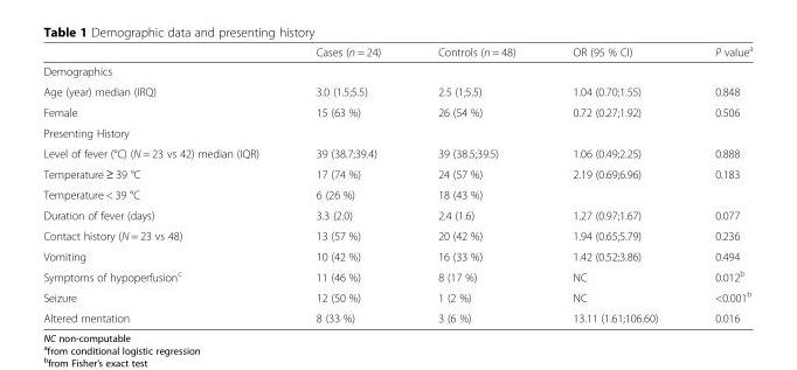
<table><thead><tr><td></td><td>Cases (n = 24)</td><td>Controls (n = 48)</td><td>OR (95 % CI)</td><td>P value<sup>a</sup></td></tr></thead><tbody><tr><td colspan="5">Demographics</td></tr><tr><td>Age (year) median (IRQ)</td><td>3.0 (1.5;5.5)</td><td>2.5 (1;5.5)</td><td>1.04 (0.70;1.55)</td><td>0.848</td></tr><tr><td>Female</td><td>15 (63 %)</td><td>26 (54 %)</td><td>0.72 (0.27;1.92)</td><td>0.506</td></tr><tr><td colspan="5">Presenting History</td></tr><tr><td>Level of fever (°C) (N = 23 vs 42) median (IQR)</td><td>39 (38.7;39.4)</td><td>39 (38.5;39.5)</td><td>1.06 (0.49;2.25)</td><td>0.888</td></tr><tr><td>Temperature ≥ 39 °C</td><td>17 (74 %)</td><td>24 (57 %)</td><td>2.19 (0.69;6.96)</td><td>0.183</td></tr><tr><td>Temperature &lt; 39 °C</td><td>6 (26 %)</td><td>18 (43 %)</td><td></td><td></td></tr><tr><td>Duration of fever (days)</td><td>3.3 (2.0)</td><td>2.4 (1.6)</td><td>1.27 (0.97;1.67)</td><td>0.077</td></tr><tr><td>Contact history (N = 23 vs 48)</td><td>13 (57 %)</td><td>20 (42 %)</td><td>1.94 (0.65;5.79)</td><td>0.236</td></tr><tr><td>Vomiting</td><td>10 (42 %)</td><td>16 (33 %)</td><td>1.42 (0.52;3.86)</td><td>0.494</td></tr><tr><td>Symptoms of hypoperfusion<sup>c</sup></td><td>11 (46 %)</td><td>8 (17 %)</td><td>NC</td><td>0.012<sup>b</sup></td></tr><tr><td>Seizure</td><td>12 (50 %)</td><td>1 (2 %)</td><td>NC</td><td>&lt;0.001<sup>b</sup></td></tr><tr><td>Altered mentation</td><td>8 (33 %)</td><td>3 (6 %)</td><td>13.11 (1.61;106.60)</td><td>0.016</td></tr></tbody></table>